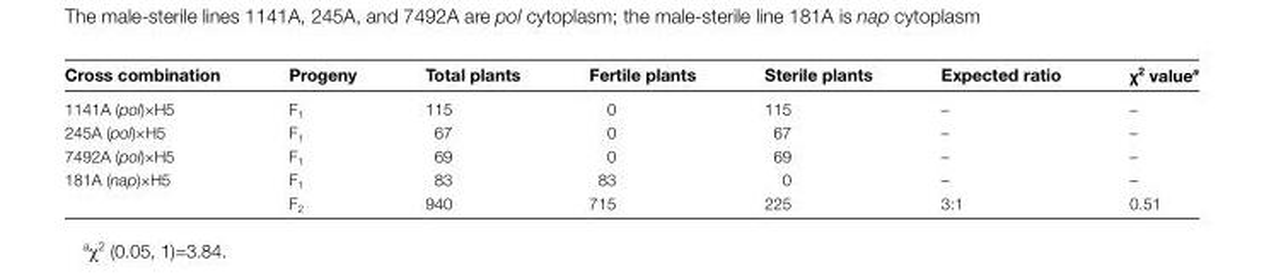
<table><thead><tr><td>Cross combination</td><td>Progeny</td><td>Total plants</td><td>Fertile plants</td><td>Sterile plants</td><td>Expected ratio</td><td>χ<sup>2</sup> value<sup>a</sup></td></tr></thead><tbody><tr><td>1141A (pol)×H5</td><td>F<sub>1</sub></td><td>115</td><td>0</td><td>115</td><td>–</td><td>–</td></tr><tr><td>245A (pol)×H5</td><td>F<sub>1</sub></td><td>67</td><td>0</td><td>67</td><td>–</td><td>–</td></tr><tr><td>7492A (pol)×H5</td><td>F<sub>1</sub></td><td>69</td><td>0</td><td>69</td><td>–</td><td>–</td></tr><tr><td rowspan="2">181A (nap)×H5</td><td>F<sub>1</sub></td><td>83</td><td>83</td><td>0</td><td>–</td><td>–</td></tr><tr><td>F<sub>2</sub></td><td>940</td><td>715</td><td>225</td><td>3:1</td><td>0.51</td></tr></tbody></table>